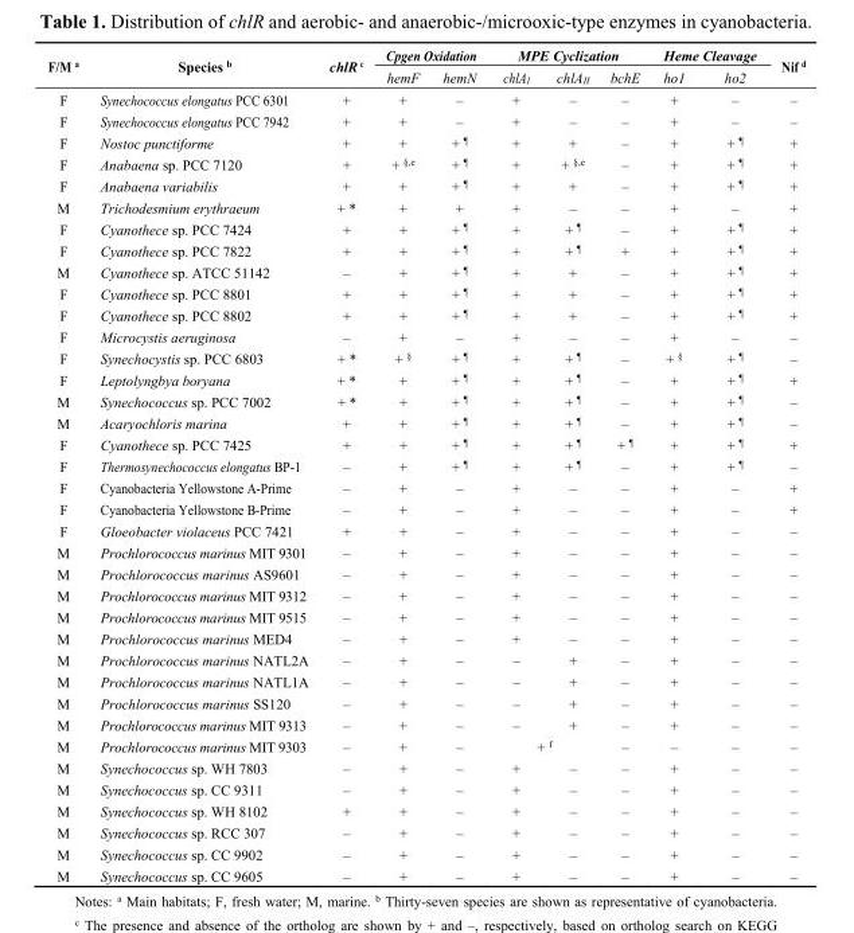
<table><thead><tr><td rowspan="2">F/M <sup>a</sup></td><td rowspan="2">Species <sup>b</sup></td><td rowspan="2">chlR <sup>c</sup></td><td colspan="2">Cpgen Oxidation</td><td colspan="3">MPE Cyclization</td><td colspan="2">Heme Cleavage</td><td rowspan="2">Nif <sup>d</sup></td></tr><tr><td>hemF</td><td>hemN</td><td>chlA<sub>I</sub></td><td>chlA<sub>II</sub></td><td>bchE</td><td>ho1</td><td>ho2</td></tr></thead><tbody><tr><td>F</td><td>Synechococcus elongatus PCC 6301</td><td>+</td><td>+</td><td>–</td><td>+</td><td>–</td><td>–</td><td>+</td><td>–</td><td>–</td></tr><tr><td>F</td><td>Synechococcus elongatus PCC 7942</td><td>+</td><td>+</td><td>–</td><td>+</td><td>–</td><td>–</td><td>+</td><td>–</td><td>–</td></tr><tr><td>F</td><td>Nostoc punctiforme</td><td>+</td><td>+</td><td>+ <sup>¶</sup></td><td>+</td><td>+</td><td>–</td><td>+</td><td>+ <sup>¶</sup></td><td>+</td></tr><tr><td>F</td><td>Anabaena sp. PCC 7120</td><td>+</td><td>+ <sup>§,e</sup></td><td>+ <sup>¶</sup></td><td>+</td><td>+ <sup>§,e</sup></td><td>–</td><td>+</td><td>+ <sup>¶</sup></td><td>+</td></tr><tr><td>F</td><td>Anabaena variabilis</td><td>+</td><td>+</td><td>+ <sup>¶</sup></td><td>+</td><td>+</td><td>–</td><td>+</td><td>+ <sup>¶</sup></td><td>+</td></tr><tr><td>M</td><td>Trichodesmium erythraeum</td><td>+ *</td><td>+</td><td>+</td><td>+</td><td>–</td><td>–</td><td>+</td><td>–</td><td>+</td></tr><tr><td>F</td><td>Cyanothece sp. PCC 7424</td><td>+</td><td>+</td><td>+ <sup>¶</sup></td><td>+</td><td>+ <sup>¶</sup></td><td>–</td><td>+</td><td>+ <sup>¶</sup></td><td>+</td></tr><tr><td>F</td><td>Cyanothece sp. PCC 7822</td><td>+</td><td>+</td><td>+ <sup>¶</sup></td><td>+</td><td>+ <sup>¶</sup></td><td>+</td><td>+</td><td>+ <sup>¶</sup></td><td>+</td></tr><tr><td>M</td><td>Cyanothece sp. ATCC 51142</td><td>–</td><td>+</td><td>+ <sup>¶</sup></td><td>+</td><td>+</td><td>–</td><td>+</td><td>+ <sup>¶</sup></td><td>+</td></tr><tr><td>F</td><td>Cyanothece sp. PCC 8801</td><td>+</td><td>+</td><td>+ <sup>¶</sup></td><td>+</td><td>+</td><td>–</td><td>+</td><td>+ <sup>¶</sup></td><td>+</td></tr><tr><td>F</td><td>Cyanothece sp. PCC 8802</td><td>+</td><td>+</td><td>+ <sup>¶</sup></td><td>+</td><td>+</td><td>–</td><td>+</td><td>+ <sup>¶</sup></td><td>+</td></tr><tr><td>F</td><td>Microcystis aeruginosa</td><td>–</td><td>+</td><td>–</td><td>+</td><td>–</td><td>–</td><td>+</td><td>–</td><td>–</td></tr><tr><td>F</td><td>Synechocystis sp. PCC 6803</td><td>+ *</td><td>+ <sup>§</sup></td><td>+ <sup>¶</sup></td><td>+</td><td>+ <sup>¶</sup></td><td>–</td><td>+ <sup>§</sup></td><td>+ <sup>¶</sup></td><td>–</td></tr><tr><td>F</td><td>Leptolyngbya boryana</td><td>+ *</td><td>+</td><td>+ <sup>¶</sup></td><td>+</td><td>+ <sup>¶</sup></td><td>–</td><td>+</td><td>+ <sup>¶</sup></td><td>+</td></tr><tr><td>M</td><td>Synechococcus sp. PCC 7002</td><td>+ *</td><td>+</td><td>+ <sup>¶</sup></td><td>+</td><td>+ <sup>¶</sup></td><td>–</td><td>+</td><td>+ <sup>¶</sup></td><td>–</td></tr><tr><td>M</td><td>Acaryochloris marina</td><td>+</td><td>+</td><td>+ <sup>¶</sup></td><td>+</td><td>+ <sup>¶</sup></td><td>–</td><td>+</td><td>+ <sup>¶</sup></td><td>–</td></tr><tr><td>F</td><td>Cyanothece sp. PCC 7425</td><td>+</td><td>+</td><td>+ <sup>¶</sup></td><td>+</td><td>+ <sup>¶</sup></td><td>+ <sup>¶</sup></td><td>+</td><td>+ <sup>¶</sup></td><td>+</td></tr><tr><td>F</td><td>Thermosynechococcus elongatus BP-1</td><td>–</td><td>+</td><td>+ <sup>¶</sup></td><td>+</td><td>+ <sup>¶</sup></td><td>–</td><td>+</td><td>+ <sup>¶</sup></td><td>–</td></tr><tr><td>F</td><td>Cyanobacteria Yellowstone A-Prime</td><td>–</td><td>+</td><td>–</td><td>+</td><td>–</td><td>–</td><td>+</td><td>–</td><td>+</td></tr><tr><td>F</td><td>Cyanobacteria Yellowstone B-Prime</td><td>–</td><td>+</td><td>–</td><td>+</td><td>–</td><td>–</td><td>+</td><td>–</td><td>+</td></tr><tr><td>F</td><td>Gloeobacter violaceus PCC 7421</td><td>+</td><td>+</td><td>–</td><td>+</td><td>–</td><td>–</td><td>+</td><td>–</td><td>–</td></tr><tr><td>M</td><td>Prochlorococcus marinus MIT 9301</td><td>–</td><td>+</td><td>–</td><td>+</td><td>–</td><td>–</td><td>+</td><td>–</td><td>–</td></tr><tr><td>M</td><td>Prochlorococcus marinus AS9601</td><td>–</td><td>+</td><td>–</td><td>+</td><td>–</td><td>–</td><td>+</td><td>–</td><td>–</td></tr><tr><td>M</td><td>Prochlorococcus marinus MIT 9312</td><td>–</td><td>+</td><td>–</td><td>+</td><td>–</td><td>–</td><td>+</td><td>–</td><td>–</td></tr><tr><td>M</td><td>Prochlorococcus marinus MIT 9515</td><td>–</td><td>+</td><td>–</td><td>+</td><td>–</td><td>–</td><td>+</td><td>–</td><td>–</td></tr><tr><td>M</td><td>Prochlorococcus marinus MED4</td><td>–</td><td>+</td><td>–</td><td>+</td><td>–</td><td>–</td><td>+</td><td>–</td><td>–</td></tr><tr><td>M</td><td>Prochlorococcus marinus NATL2A</td><td>–</td><td>+</td><td>–</td><td>–</td><td>+</td><td>–</td><td>+</td><td>–</td><td>–</td></tr><tr><td>M</td><td>Prochlorococcus marinus NATL1A</td><td>–</td><td>+</td><td>–</td><td>–</td><td>+</td><td>–</td><td>+</td><td>–</td><td>–</td></tr><tr><td>M</td><td>Prochlorococcus marinus SS120</td><td>–</td><td>+</td><td>–</td><td>–</td><td>+</td><td>–</td><td>+</td><td>–</td><td>–</td></tr><tr><td>M</td><td>Prochlorococcus marinus MIT 9313</td><td>–</td><td>+</td><td>–</td><td>–</td><td>+</td><td>–</td><td>+</td><td>–</td><td>–</td></tr><tr><td>M</td><td>Prochlorococcus marinus MIT 9303</td><td>–</td><td>+</td><td>–</td><td colspan="2">+ <sup>f</sup></td><td>–</td><td>–</td><td>–</td><td>–</td></tr><tr><td>M</td><td>Synechococcus sp. WH 7803</td><td>–</td><td>+</td><td>–</td><td>+</td><td>–</td><td>–</td><td>+</td><td>–</td><td>–</td></tr><tr><td>M</td><td>Synechococcus sp. CC 9311</td><td>–</td><td>+</td><td>–</td><td>+</td><td>–</td><td>–</td><td>+</td><td>–</td><td>–</td></tr><tr><td>M</td><td>Synechococcus sp. WH 8102</td><td>+</td><td>+</td><td>–</td><td>+</td><td>–</td><td>–</td><td>+</td><td>–</td><td>–</td></tr><tr><td>M</td><td>Synechococcus sp. RCC 307</td><td>–</td><td>+</td><td>–</td><td>+</td><td>–</td><td>–</td><td>+</td><td>–</td><td>–</td></tr><tr><td>M</td><td>Synechococcus sp. CC 9902</td><td>–</td><td>+</td><td>–</td><td>+</td><td>–</td><td>–</td><td>+</td><td>–</td><td>–</td></tr><tr><td>M</td><td>Synechococcus sp. CC 9605</td><td>–</td><td>+</td><td>–</td><td>+</td><td>–</td><td>–</td><td>+</td><td>–</td><td>–</td></tr></tbody></table>